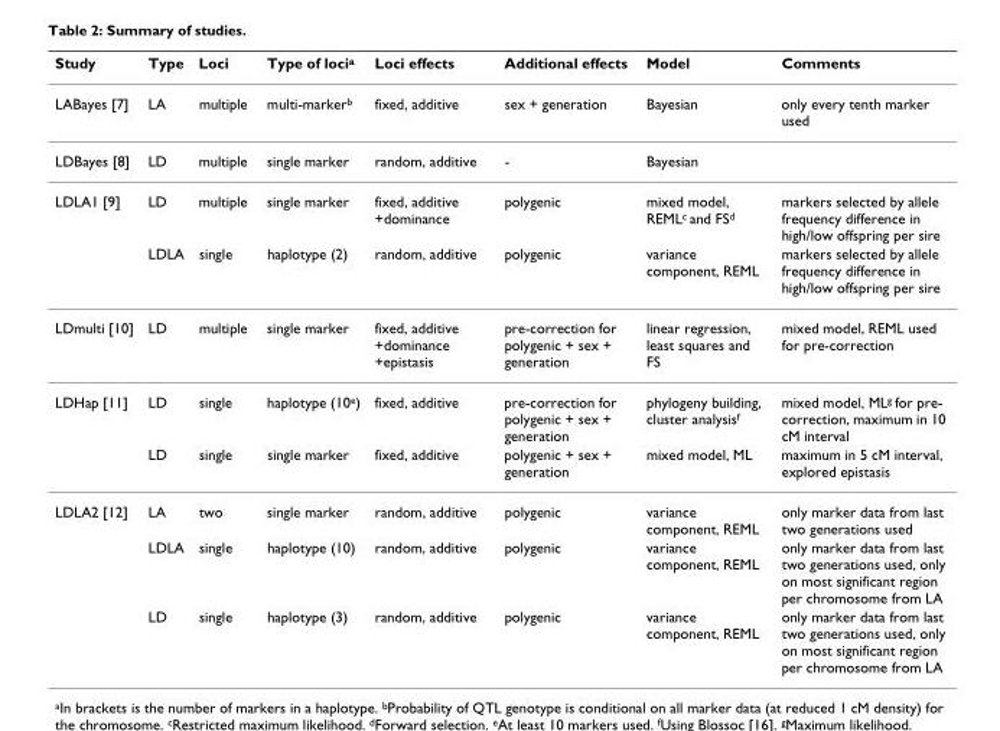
<table><thead><tr><td>Study</td><td>Type</td><td>Loci</td><td>Type of loci<sup>a</sup></td><td>Loci effects</td><td>Additional effects</td><td>Model</td><td>Comments</td></tr></thead><tbody><tr><td>LABayes [7]</td><td>LA</td><td>multiple</td><td>multi-marker<sup>b</sup></td><td>fixed, additive</td><td>sex + generation</td><td>Bayesian</td><td>only every tenth marker used</td></tr><tr><td>LDBayes [8]</td><td>LD</td><td>multiple</td><td>single marker</td><td>random, additive</td><td>-</td><td>Bayesian</td><td></td></tr><tr><td rowspan="2">LDLA1 [9]</td><td>LD</td><td>multiple</td><td>single marker</td><td>fixed, additive +dominance</td><td>polygenic</td><td>mixed model, REML<sup>c</sup> and FS<sup>d</sup></td><td>markers selected by allele frequency difference in high/low offspring per sire</td></tr><tr><td>LDLA</td><td>single</td><td>haplotype (2)</td><td>random, additive</td><td>polygenic</td><td>variance component, REML</td><td>markers selected by allele frequency difference in high/low offspring per sire</td></tr><tr><td>LDmulti [10]</td><td>LD</td><td>multiple</td><td>single marker</td><td>fixed, additive +dominance +epistasis</td><td>pre-correction for polygenic + sex + generation</td><td>linear regression, least squares and FS</td><td>mixed model, REML used for pre-correction</td></tr><tr><td rowspan="2">LDHap [11]</td><td>LD</td><td>single</td><td>haplotype (10<sup>e</sup>)</td><td>fixed, additive</td><td>pre-correction for polygenic + sex + generation</td><td>phylogeny building, cluster analysis<sup>f</sup></td><td>mixed model, ML<sup>g</sup> for pre- correction, maximum in 10 cM interval</td></tr><tr><td>LD</td><td>single</td><td>single marker</td><td>fixed, additive</td><td>polygenic + sex + generation</td><td>mixed model, ML</td><td>maximum in 5 cM interval, explored epistasis</td></tr><tr><td rowspan="3">LDLA2 [12]</td><td>LA</td><td>two</td><td>single marker</td><td>random, additive</td><td>polygenic</td><td>variance component, REML</td><td>only marker data from last two generations used</td></tr><tr><td>LDLA</td><td>single</td><td>haplotype (10)</td><td>random, additive</td><td>polygenic</td><td>variance component, REML</td><td>only marker data from last two generations used, only on most significant region per chromosome from LA</td></tr><tr><td>LD</td><td>single</td><td>haplotype (3)</td><td>random, additive</td><td>polygenic</td><td>variance component, REML</td><td>only marker data from last two generations used, only on most significant region per chromosome from LA</td></tr></tbody></table>